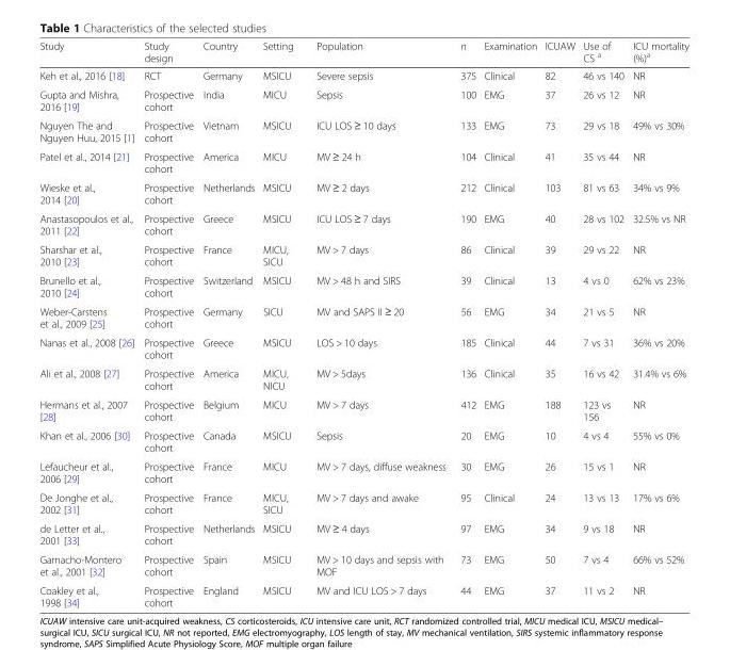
<table><thead><tr><td>Study</td><td>Study design</td><td>Country</td><td>Setting</td><td>Population</td><td>n</td><td>Examination</td><td>ICUAW</td><td>Use of CS <sup>a</sup></td><td>ICU mortality (%)<sup>a</sup></td></tr></thead><tbody><tr><td>Keh et al., 2016 [18]</td><td>RCT</td><td>Germany</td><td>MSICU</td><td>Severe sepsis</td><td>375</td><td>Clinical</td><td>82</td><td>46 vs 140</td><td>NR</td></tr><tr><td>Gupta and Mishra, 2016 [19]</td><td>Prospective cohort</td><td>India</td><td>MICU</td><td>Sepsis</td><td>100</td><td>EMG</td><td>37</td><td>26 vs 12</td><td>NR</td></tr><tr><td>Nguyen The and Nguyen Huu, 2015 [1]</td><td>Prospective cohort</td><td>Vietnam</td><td>MSICU</td><td>ICU LOS ≥ 10 days</td><td>133</td><td>EMG</td><td>73</td><td>29 vs 18</td><td>49% vs 30%</td></tr><tr><td>Patel et al., 2014 [21]</td><td>Prospective cohort</td><td>America</td><td>MICU</td><td>MV ≥ 24 h</td><td>104</td><td>Clinical</td><td>41</td><td>35 vs 44</td><td>NR</td></tr><tr><td>Wieske et al., 2014 [20]</td><td>Prospective cohort</td><td>Netherlands</td><td>MSICU</td><td>MV ≥ 2 days</td><td>212</td><td>Clinical</td><td>103</td><td>81 vs 63</td><td>34% vs 9%</td></tr><tr><td>Anastasopoulos et al., 2011 [22]</td><td>Prospective cohort</td><td>Greece</td><td>MSICU</td><td>ICU LOS ≥ 7 days</td><td>190</td><td>EMG</td><td>40</td><td>28 vs 102</td><td>32.5% vs NR</td></tr><tr><td>Sharshar et al., 2010 [23]</td><td>Prospective cohort</td><td>France</td><td>MICU, SICU</td><td>MV &gt; 7 days</td><td>86</td><td>Clinical</td><td>39</td><td>29 vs 22</td><td>NR</td></tr><tr><td>Brunello et al., 2010 [24]</td><td>Prospective cohort</td><td>Switzerland</td><td>MSICU</td><td>MV &gt; 48 h and SIRS</td><td>39</td><td>Clinical</td><td>13</td><td>4 vs 0</td><td>62% vs 23%</td></tr><tr><td>Weber-Carstens et al., 2009 [25]</td><td>Prospective cohort</td><td>Germany</td><td>SICU</td><td>MV and SAPS II ≥ 20</td><td>56</td><td>EMG</td><td>34</td><td>21 vs 5</td><td>NR</td></tr><tr><td>Nanas et al., 2008 [26]</td><td>Prospective cohort</td><td>Greece</td><td>MSICU</td><td>LOS &gt; 10 days</td><td>185</td><td>Clinical</td><td>44</td><td>7 vs 31</td><td>36% vs 20%</td></tr><tr><td>Ali et al., 2008 [27]</td><td>Prospective cohort</td><td>America</td><td>MICU, NICU</td><td>MV &gt; 5days</td><td>136</td><td>Clinical</td><td>35</td><td>16 vs 42</td><td>31.4% vs 6%</td></tr><tr><td>Hermans et al., 2007 [28]</td><td>Prospective cohort</td><td>Belgium</td><td>MICU</td><td>MV &gt; 7 days</td><td>412</td><td>EMG</td><td>188</td><td>123 vs 156</td><td>NR</td></tr><tr><td>Khan et al., 2006 [30]</td><td>Prospective cohort</td><td>Canada</td><td>MSICU</td><td>Sepsis</td><td>20</td><td>EMG</td><td>10</td><td>4 vs 4</td><td>55% vs 0%</td></tr><tr><td>Lefaucheur et al., 2006 [29]</td><td>Prospective cohort</td><td>France</td><td>MICU</td><td>MV &gt; 7 days, diffuse weakness</td><td>30</td><td>EMG</td><td>26</td><td>15 vs 1</td><td>NR</td></tr><tr><td>De Jonghe et al., 2002 [31]</td><td>Prospective cohort</td><td>France</td><td>MICU, SICU</td><td>MV &gt; 7 days and awake</td><td>95</td><td>Clinical</td><td>24</td><td>13 vs 13</td><td>17% vs 6%</td></tr><tr><td>de Letter et al., 2001 [33]</td><td>Prospective cohort</td><td>Netherlands</td><td>MSICU</td><td>MV ≥ 4 days</td><td>97</td><td>EMG</td><td>34</td><td>9 vs 18</td><td>NR</td></tr><tr><td>Garnacho-Montero et al., 2001 [32]</td><td>Prospective cohort</td><td>Spain</td><td>MSICU</td><td>MV &gt; 10 days and sepsis with MOF</td><td>73</td><td>EMG</td><td>50</td><td>7 vs 4</td><td>66% vs 52%</td></tr><tr><td>Coakley et al., 1998 [34]</td><td>Prospective cohort</td><td>England</td><td>MSICU</td><td>MV and ICU LOS &gt; 7 days</td><td>44</td><td>EMG</td><td>37</td><td>11 vs 2</td><td>NR</td></tr></tbody></table>